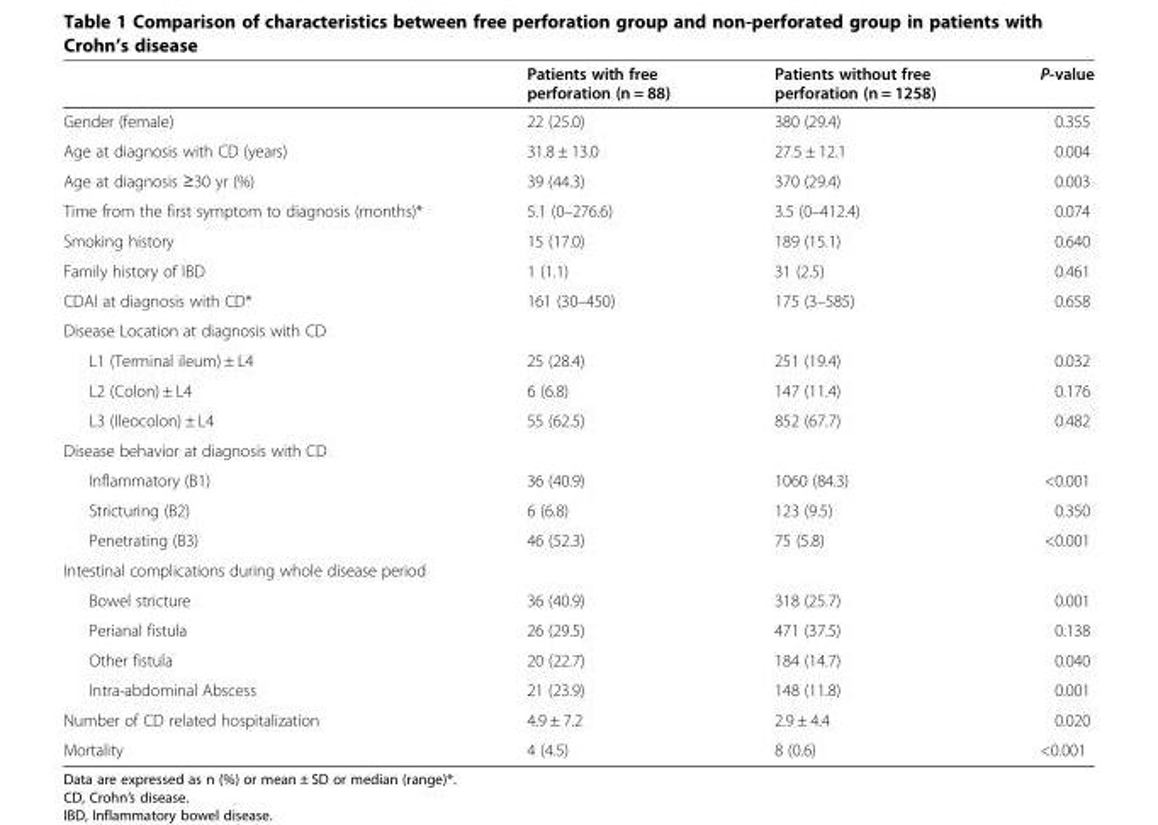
<table><thead><tr><td></td><td>Patients with free perforation (n = 88)</td><td>Patients without free perforation (n = 1258)</td><td>P-value</td></tr></thead><tbody><tr><td>Gender (female)</td><td>22 (25.0)</td><td>380 (29.4)</td><td>0.355</td></tr><tr><td>Age at diagnosis with CD (years)</td><td>31.8 ± 13.0</td><td>27.5 ± 12.1</td><td>0.004</td></tr><tr><td>Age at diagnosis ≥30 yr (%)</td><td>39 (44.3)</td><td>370 (29.4)</td><td>0.003</td></tr><tr><td>Time from the first symptom to diagnosis (months)*</td><td>5.1 (0–276.6)</td><td>3.5 (0–412.4)</td><td>0.074</td></tr><tr><td>Smoking history</td><td>15 (17.0)</td><td>189 (15.1)</td><td>0.640</td></tr><tr><td>Family history of IBD</td><td>1 (1.1)</td><td>31 (2.5)</td><td>0.461</td></tr><tr><td>CDAI at diagnosis with CD*</td><td>161 (30–450)</td><td>175 (3–585)</td><td>0.658</td></tr><tr><td colspan="4">Disease Location at diagnosis with CD</td></tr><tr><td>L1 (Terminal ileum) ± L4</td><td>25 (28.4)</td><td>251 (19.4)</td><td>0.032</td></tr><tr><td>L2 (Colon) ± L4</td><td>6 (6.8)</td><td>147 (11.4)</td><td>0.176</td></tr><tr><td>L3 (Ileocolon) ± L4</td><td>55 (62.5)</td><td>852 (67.7)</td><td>0.482</td></tr><tr><td colspan="4">Disease behavior at diagnosis with CD</td></tr><tr><td>Inflammatory (B1)</td><td>36 (40.9)</td><td>1060 (84.3)</td><td>&lt;0.001</td></tr><tr><td>Stricturing (B2)</td><td>6 (6.8)</td><td>123 (9.5)</td><td>0.350</td></tr><tr><td>Penetrating (B3)</td><td>46 (52.3)</td><td>75 (5.8)</td><td>&lt;0.001</td></tr><tr><td colspan="4">Intestinal complications during whole disease period</td></tr><tr><td>Bowel stricture</td><td>36 (40.9)</td><td>318 (25.7)</td><td>0.001</td></tr><tr><td>Perianal fistula</td><td>26 (29.5)</td><td>471 (37.5)</td><td>0.138</td></tr><tr><td>Other fistula</td><td>20 (22.7)</td><td>184 (14.7)</td><td>0.040</td></tr><tr><td>Intra-abdominal Abscess</td><td>21 (23.9)</td><td>148 (11.8)</td><td>0.001</td></tr><tr><td>Number of CD related hospitalization</td><td>4.9 ± 7.2</td><td>2.9 ± 4.4</td><td>0.020</td></tr><tr><td>Mortality</td><td>4 (4.5)</td><td>8 (0.6)</td><td>&lt;0.001</td></tr></tbody></table>